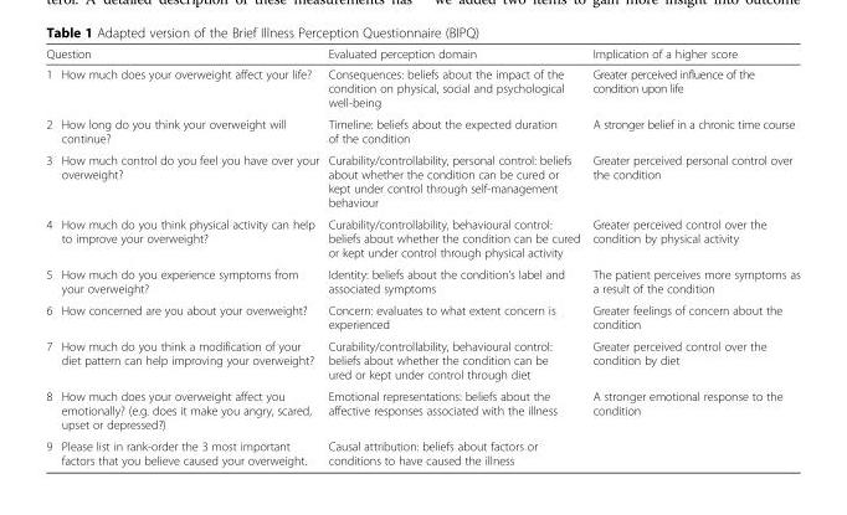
<table><thead><tr><td colspan="2">Question</td><td rowspan="2">Evaluated perception domain Consequences: beliefs about the impact of the condition on physical, social and psychological well-being</td><td rowspan="2">Implication of a higher score Greater perceived influence of the condition upon life</td></tr><tr><td>1</td><td>How much does your overweight affect your life?</td></tr></thead><tbody><tr><td>2</td><td>How long do you think your overweight will continue?</td><td>Timeline: beliefs about the expected duration of the condition</td><td>A stronger belief in a chronic time course</td></tr><tr><td>3</td><td>How much control do you feel you have over your overweight?</td><td>Curability/controllability, personal control: beliefs about whether the condition can be cured or kept under control through self-management behaviour</td><td>Greater perceived personal control over the condition</td></tr><tr><td>4</td><td>How much do you think physical activity can help to improve your overweight?</td><td>Curability/controllability, behavioural control: beliefs about whether the condition can be cured or kept under control through physical activity</td><td>Greater perceived control over the condition by physical activity</td></tr><tr><td>5</td><td>How much do you experience symptoms from your overweight?</td><td>Identity: beliefs about the condition’s label and associated symptoms</td><td>The patient perceives more symptoms as a result of the condition</td></tr><tr><td>6</td><td>How concerned are you about your overweight?</td><td>Concern: evaluates to what extent concern is experienced</td><td>Greater feelings of concern about the condition</td></tr><tr><td>7</td><td>How much do you think a modification of your diet pattern can help improving your overweight?</td><td>Curability/controllability, behavioural control: beliefs about whether the condition can be ured or kept under control through diet</td><td>Greater perceived control over the condition by diet</td></tr><tr><td>8</td><td>How much does your overweight affect you emotionally? (e.g. does it make you angry, scared, upset or depressed?)</td><td>Emotional representations: beliefs about the affective responses associated with the illness</td><td>A stronger emotional response to the condition</td></tr><tr><td>9</td><td>Please list in rank-order the 3 most important factors that you believe caused your overweight.</td><td>Causal attribution: beliefs about factors or conditions to have caused the illness</td><td></td></tr></tbody></table>